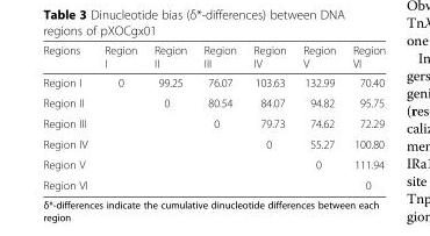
<table><thead><tr><td>Regions</td><td>Region I</td><td>Region II</td><td>Region III</td><td>Region IV</td><td>Region V</td><td>Region VI</td></tr></thead><tbody><tr><td>Region I</td><td>0</td><td>99.25</td><td>76.07</td><td>103.63</td><td>132.99</td><td>70.40</td></tr><tr><td>Region II</td><td></td><td>0</td><td>80.54</td><td>84.07</td><td>94.82</td><td>95.75</td></tr><tr><td>Region III</td><td></td><td></td><td>0</td><td>79.73</td><td>74.62</td><td>72.29</td></tr><tr><td>Region IV</td><td></td><td></td><td></td><td>0</td><td>55.27</td><td>100.80</td></tr><tr><td>Region V</td><td></td><td></td><td></td><td></td><td>0</td><td>111.94</td></tr><tr><td>Region VI</td><td></td><td></td><td></td><td></td><td></td><td>0</td></tr></tbody></table>